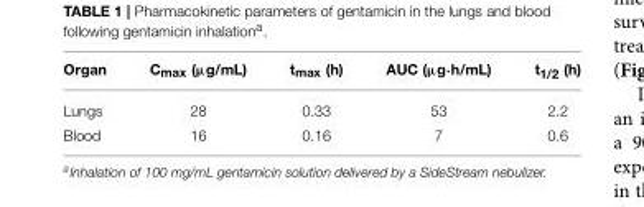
<table><thead><tr><td>Organ</td><td>C<sub>max</sub> (µg/mL)</td><td>t<sub>max</sub> (h)</td><td>AUC (µg·h/mL)</td><td>t<sub>1/2</sub> (h)</td></tr></thead><tbody><tr><td>Lungs</td><td>28</td><td>0.33</td><td>53</td><td>2.2</td></tr><tr><td>Blood</td><td>16</td><td>0.16</td><td>7</td><td>0.6</td></tr></tbody></table>